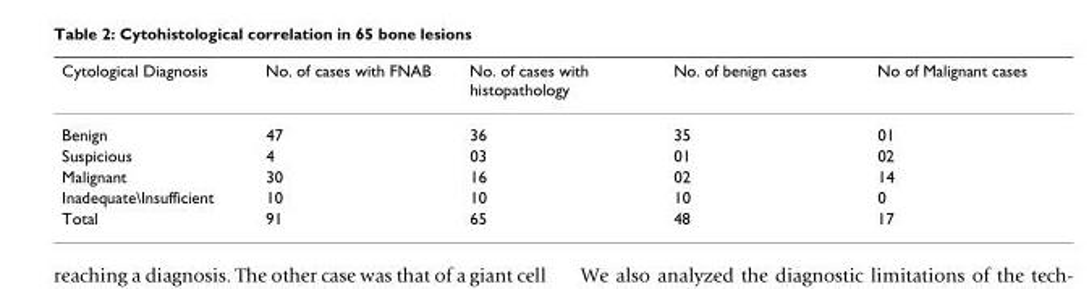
<table><thead><tr><td>Cytological Diagnosis</td><td>No. of cases with FNAB</td><td>No. of cases with histopathology</td><td>No. of benign cases</td><td>No of Malignant cases</td></tr></thead><tbody><tr><td>Benign</td><td>47</td><td>36</td><td>35</td><td>01</td></tr><tr><td>Suspicious</td><td>4</td><td>03</td><td>01</td><td>02</td></tr><tr><td>Malignant</td><td>30</td><td>16</td><td>02</td><td>14</td></tr><tr><td>Inadequate\Insufficient</td><td>10</td><td>10</td><td>10</td><td>0</td></tr><tr><td>Total</td><td>91</td><td>65</td><td>48</td><td>17</td></tr></tbody></table>